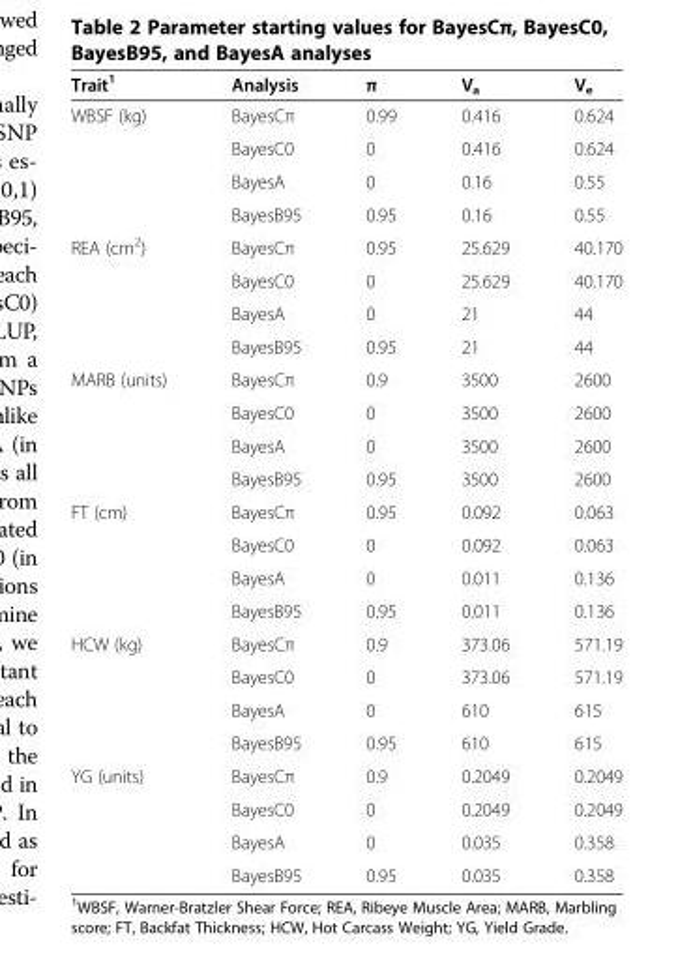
<table><thead><tr><td>Trait<sup>1</sup></td><td>Analysis</td><td>π</td><td>V<sub>a</sub></td><td>V<sub>e</sub></td></tr></thead><tbody><tr><td rowspan="4">WBSF (kg)</td><td>BayesCπ</td><td>0.99</td><td>0.416</td><td>0.624</td></tr><tr><td>BayesC0</td><td>0</td><td>0.416</td><td>0.624</td></tr><tr><td>BayesA</td><td>0</td><td>0.16</td><td>0.55</td></tr><tr><td>BayesB95</td><td>0.95</td><td>0.16</td><td>0.55</td></tr><tr><td rowspan="4">REA (cm<sup>2</sup>)</td><td>BayesCπ</td><td>0.95</td><td>25.629</td><td>40.170</td></tr><tr><td>BayesC0</td><td>0</td><td>25.629</td><td>40.170</td></tr><tr><td>BayesA</td><td>0</td><td>21</td><td>44</td></tr><tr><td>BayesB95</td><td>0.95</td><td>21</td><td>44</td></tr><tr><td rowspan="4">MARB (units)</td><td>BayesCπ</td><td>0.9</td><td>3500</td><td>2600</td></tr><tr><td>BayesC0</td><td>0</td><td>3500</td><td>2600</td></tr><tr><td>BayesA</td><td>0</td><td>3500</td><td>2600</td></tr><tr><td>BayesB95</td><td>0.95</td><td>3500</td><td>2600</td></tr><tr><td rowspan="4">FT (cm)</td><td>BayesCπ</td><td>0.95</td><td>0.092</td><td>0.063</td></tr><tr><td>BayesC0</td><td>0</td><td>0.092</td><td>0.063</td></tr><tr><td>BayesA</td><td>0</td><td>0.011</td><td>0.136</td></tr><tr><td>BayesB95</td><td>0.95</td><td>0.011</td><td>0.136</td></tr><tr><td rowspan="4">HCW (kg)</td><td>BayesCπ</td><td>0.9</td><td>373.06</td><td>571.19</td></tr><tr><td>BayesC0</td><td>0</td><td>373.06</td><td>571.19</td></tr><tr><td>BayesA</td><td>0</td><td>610</td><td>615</td></tr><tr><td>BayesB95</td><td>0.95</td><td>610</td><td>615</td></tr><tr><td rowspan="4">YG (units)</td><td>BayesCπ</td><td>0.9</td><td>0.2049</td><td>0.2049</td></tr><tr><td>BayesC0</td><td>0</td><td>0.2049</td><td>0.2049</td></tr><tr><td>BayesA</td><td>0</td><td>0.035</td><td>0.358</td></tr><tr><td>BayesB95</td><td>0.95</td><td>0.035</td><td>0.358</td></tr></tbody></table>